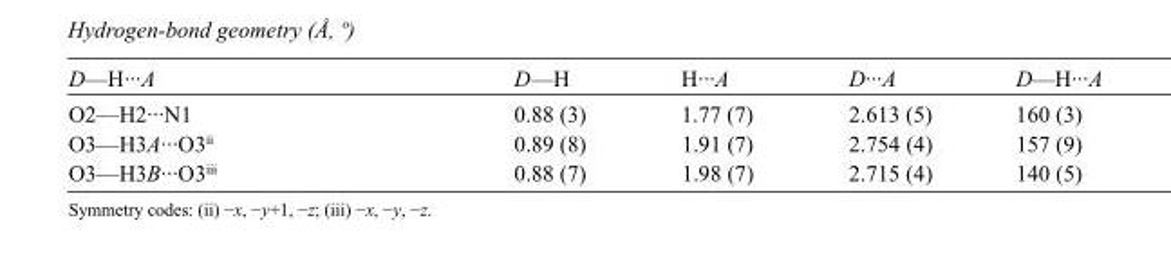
<table><tbody><tr><td>D—H···A</td><td>D—H</td><td>H···A</td><td>D···A</td><td>D—H···A</td></tr><tr><td>O2—H2···N1</td><td>0.88 (3)</td><td>1.77 (7)</td><td>2.613 (5)</td><td>160 (3)</td></tr><tr><td>O3—H3A···O3<sup>ii</sup></td><td>0.89 (8)</td><td>1.91 (7)</td><td>2.754 (4)</td><td>157 (9)</td></tr><tr><td>O3—H3B···O3<sup>iii</sup></td><td>0.88 (7)</td><td>1.98 (7)</td><td>2.715 (4)</td><td>140 (5)</td></tr></tbody></table>